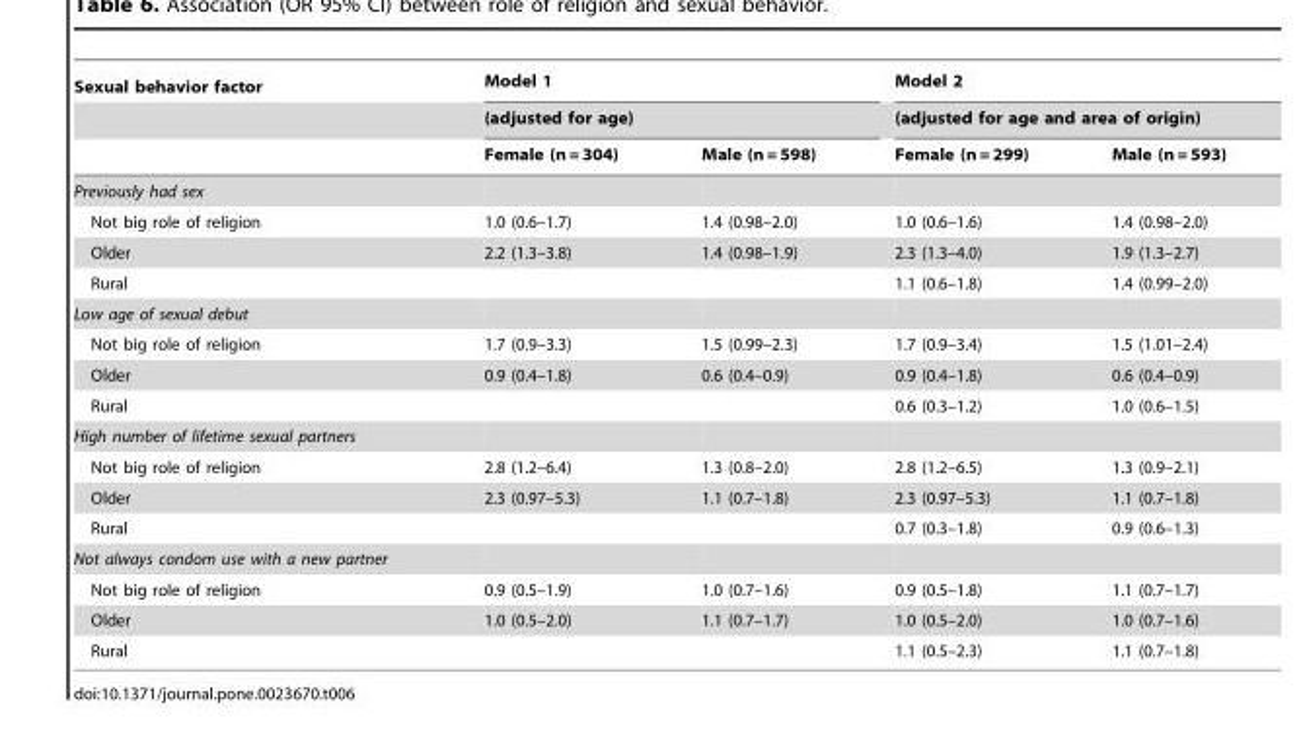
<table><thead><tr><td rowspan="3">Sexual behavior factor</td><td rowspan="2" colspan="2">Model 1 (adjusted for age)</td><td rowspan="2" colspan="2">Model 2 (adjusted for age and area of origin)</td></tr><tr></tr><tr><td>Female (n = 304)</td><td>Male (n = 598)</td><td>Female (n = 299)</td><td>Male (n = 593)</td></tr></thead><tbody><tr><td colspan="5">Previously had sex</td></tr><tr><td>Not big role of religion</td><td>1.0 (0.6–1.7)</td><td>1.4 (0.98–2.0)</td><td>1.0 (0.6–1.6)</td><td>1.4 (0.98–2.0)</td></tr><tr><td>Older</td><td>2.2 (1.3–3.8)</td><td>1.4 (0.98–1.9)</td><td>2.3 (1.3–4.0)</td><td>1.9 (1.3–2.7)</td></tr><tr><td>Rural</td><td></td><td></td><td>1.1 (0.6–1.8)</td><td>1.4 (0.99–2.0)</td></tr><tr><td colspan="5">Low age of sexual debut</td></tr><tr><td>Not big role of religion</td><td>1.7 (0.9–3.3)</td><td>1.5 (0.99–2.3)</td><td>1.7 (0.9–3.4)</td><td>1.5 (1.01–2.4)</td></tr><tr><td>Older</td><td>0.9 (0.4–1.8)</td><td>0.6 (0.4–0.9)</td><td>0.9 (0.4–1.8)</td><td>0.6 (0.4–0.9)</td></tr><tr><td>Rural</td><td></td><td></td><td>0.6 (0.3–1.2)</td><td>1.0 (0.6–1.5)</td></tr><tr><td colspan="5">High number of lifetime sexual partners</td></tr><tr><td>Not big role of religion</td><td>2.8 (1.2–6.4)</td><td>1.3 (0.8–2.0)</td><td>2.8 (1.2–6.5)</td><td>1.3 (0.9–2.1)</td></tr><tr><td>Older</td><td>2.3 (0.97–5.3)</td><td>1.1 (0.7–1.8)</td><td>2.3 (0.97–5.3)</td><td>1.1 (0.7–1.8)</td></tr><tr><td>Rural</td><td></td><td></td><td>0.7 (0.3–1.8)</td><td>0.9 (0.6–1.3)</td></tr><tr><td colspan="5">Not always condom use with a new partner</td></tr><tr><td>Not big role of religion</td><td>0.9 (0.5–1.9)</td><td>1.0 (0.7–1.6)</td><td>0.9 (0.5–1.8)</td><td>1.1 (0.7–1.7)</td></tr><tr><td>Older</td><td>1.0 (0.5–2.0)</td><td>1.1 (0.7–1.7)</td><td>1.0 (0.5–2.0)</td><td>1.0 (0.7–1.6)</td></tr><tr><td>Rural</td><td></td><td></td><td>1.1 (0.5–2.3)</td><td>1.1 (0.7–1.8)</td></tr></tbody></table>